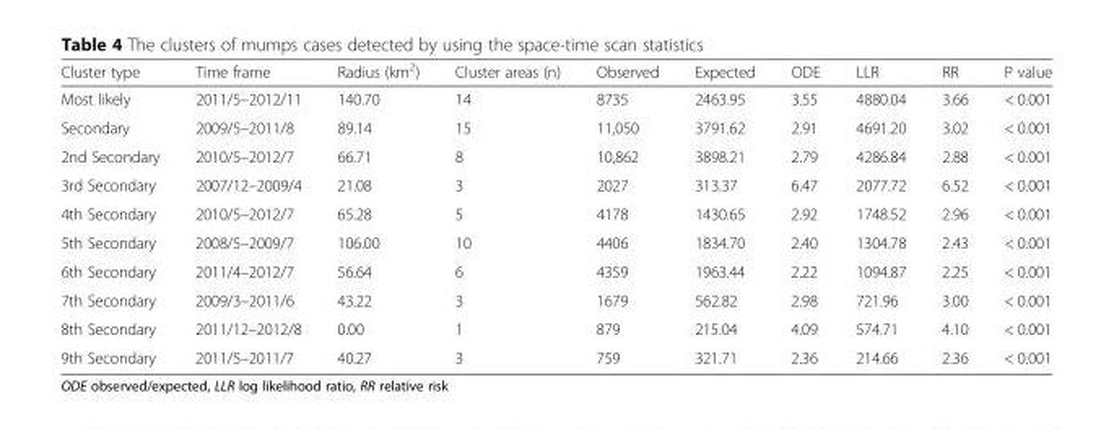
<table><thead><tr><td>Cluster type</td><td>Time frame</td><td>Radius (km<sup>2</sup>)</td><td>Cluster areas (n)</td><td>Observed</td><td>Expected</td><td>ODE</td><td>LLR</td><td>RR</td><td>P value</td></tr></thead><tbody><tr><td>Most likely</td><td>2011/5–2012/11</td><td>140.70</td><td>14</td><td>8735</td><td>2463.95</td><td>3.55</td><td>4880.04</td><td>3.66</td><td>&lt; 0.001</td></tr><tr><td>Secondary</td><td>2009/5–2011/8</td><td>89.14</td><td>15</td><td>11,050</td><td>3791.62</td><td>2.91</td><td>4691.20</td><td>3.02</td><td>&lt; 0.001</td></tr><tr><td>2nd Secondary</td><td>2010/5–2012/7</td><td>66.71</td><td>8</td><td>10,862</td><td>3898.21</td><td>2.79</td><td>4286.84</td><td>2.88</td><td>&lt; 0.001</td></tr><tr><td>3rd Secondary</td><td>2007/12–2009/4</td><td>21.08</td><td>3</td><td>2027</td><td>313.37</td><td>6.47</td><td>2077.72</td><td>6.52</td><td>&lt; 0.001</td></tr><tr><td>4th Secondary</td><td>2010/5–2012/7</td><td>65.28</td><td>5</td><td>4178</td><td>1430.65</td><td>2.92</td><td>1748.52</td><td>2.96</td><td>&lt; 0.001</td></tr><tr><td>5th Secondary</td><td>2008/5–2009/7</td><td>106.00</td><td>10</td><td>4406</td><td>1834.70</td><td>2.40</td><td>1304.78</td><td>2.43</td><td>&lt; 0.001</td></tr><tr><td>6th Secondary</td><td>2011/4–2012/7</td><td>56.64</td><td>6</td><td>4359</td><td>1963.44</td><td>2.22</td><td>1094.87</td><td>2.25</td><td>&lt; 0.001</td></tr><tr><td>7th Secondary</td><td>2009/3–2011/6</td><td>43.22</td><td>3</td><td>1679</td><td>562.82</td><td>2.98</td><td>721.96</td><td>3.00</td><td>&lt; 0.001</td></tr><tr><td>8th Secondary</td><td>2011/12–2012/8</td><td>0.00</td><td>1</td><td>879</td><td>215.04</td><td>4.09</td><td>574.71</td><td>4.10</td><td>&lt; 0.001</td></tr><tr><td>9th Secondary</td><td>2011/5–2011/7</td><td>40.27</td><td>3</td><td>759</td><td>321.71</td><td>2.36</td><td>214.66</td><td>2.36</td><td>&lt; 0.001</td></tr></tbody></table>